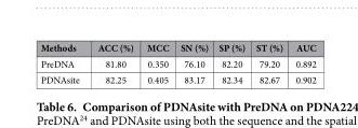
<table><thead><tr><td>Methods</td><td>ACC (%)</td><td>MCC</td><td>SN (%)</td><td>SP (%)</td><td>ST (%)</td><td>AUC</td></tr></thead><tbody><tr><td>PreDNA</td><td>81.80</td><td>0.350</td><td>76.10</td><td>82.20</td><td>79.20</td><td>0.892</td></tr><tr><td>PDNAsite</td><td>82.25</td><td>0.405</td><td>83.17</td><td>82.34</td><td>82.67</td><td>0.902</td></tr></tbody></table>